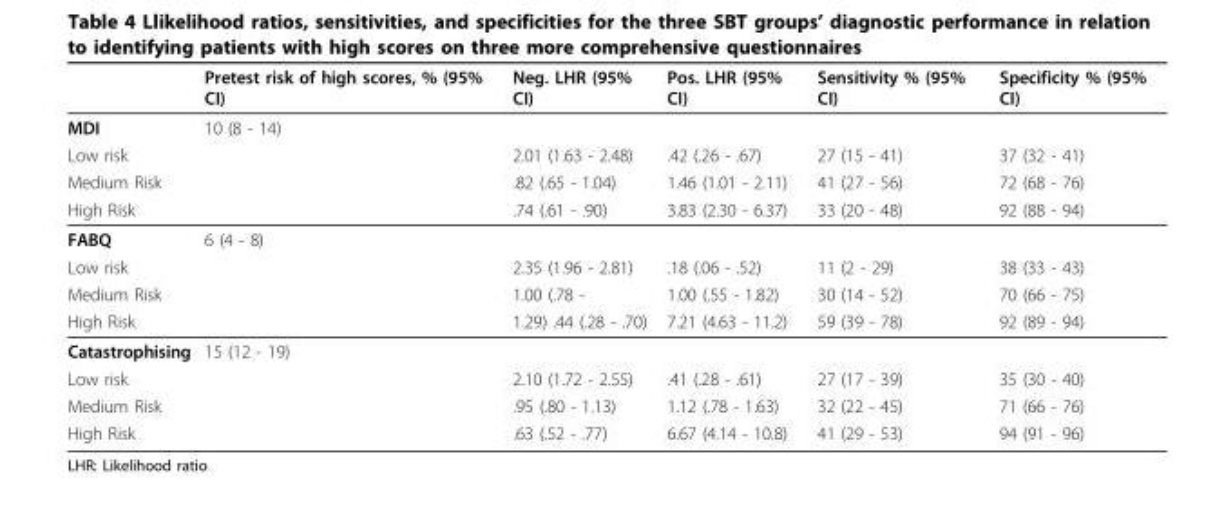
<table><thead><tr><td></td><td>Pretest risk of high scores, % (95% CI)</td><td>Neg. LHR (95% CI)</td><td>Pos. LHR (95% CI)</td><td>Sensitivity % (95% CI)</td><td>Specificity % (95% CI)</td></tr></thead><tbody><tr><td>MDI</td><td>10 (8 - 14)</td><td></td><td></td><td></td><td></td></tr><tr><td>Low risk</td><td></td><td>2.01 (1.63 - 2.48)</td><td>.42 (.26 - .67)</td><td>27 (15 - 41)</td><td>37 (32 - 41)</td></tr><tr><td>Medium Risk</td><td></td><td>.82 (.65 - 1.04)</td><td>1.46 (1.01 - 2.11)</td><td>41 (27 - 56)</td><td>72 (68 - 76)</td></tr><tr><td>High Risk</td><td></td><td>.74 (.61 - .90)</td><td>3.83 (2.30 - 6.37)</td><td>33 (20 - 48)</td><td>92 (88 - 94)</td></tr><tr><td>FABQ</td><td>6 (4 - 8)</td><td></td><td></td><td></td><td></td></tr><tr><td>Low risk</td><td></td><td>2.35 (1.96 - 2.81)</td><td>.18 (.06 - .52)</td><td>11 (2 - 29)</td><td>38 (33 - 43)</td></tr><tr><td>Medium Risk</td><td></td><td>1.00 (.78 -</td><td>1.00 (.55 - 1.82)</td><td>30 (14 - 52)</td><td>70 (66 - 75)</td></tr><tr><td>High Risk</td><td></td><td>1.29) .44 (.28 - .70)</td><td>7.21 (4.63 - 11.2)</td><td>59 (39 - 78)</td><td>92 (89 - 94)</td></tr><tr><td>Catastrophising</td><td>15 (12 - 19)</td><td></td><td></td><td></td><td></td></tr><tr><td>Low risk</td><td></td><td>2.10 (1.72 - 2.55)</td><td>.41 (.28 - .61)</td><td>27 (17 - 39)</td><td>35 (30 - 40)</td></tr><tr><td>Medium Risk</td><td></td><td>.95 (.80 - 1.13)</td><td>1.12 (.78 - 1.63)</td><td>32 (22 - 45)</td><td>71 (66 - 76)</td></tr><tr><td>High Risk</td><td></td><td>.63 (.52 - .77)</td><td>6.67 (4.14 - 10.8)</td><td>41 (29 - 53)</td><td>94 (91 - 96)</td></tr></tbody></table>